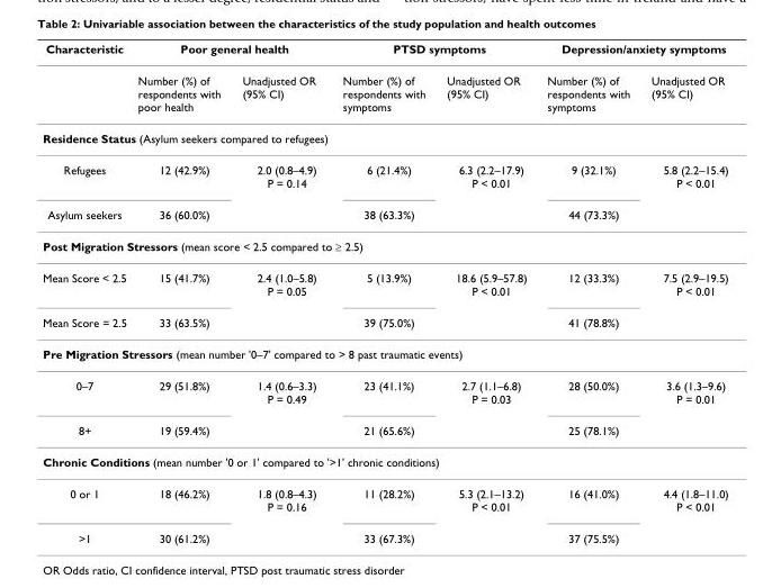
<table><thead><tr><td rowspan="2">Characteristic</td><td colspan="2">Poor general health</td><td colspan="2">PTSD symptoms</td><td colspan="2">Depression/anxiety symptoms</td></tr><tr><td>Number (%) of respondents with poor health</td><td>Unadjusted OR (95% CI)</td><td>Number (%) of respondents with symptoms</td><td>Unadjusted OR (95% CI)</td><td>Number (%) of respondents with symptoms</td><td>Unadjusted OR (95% CI)</td></tr></thead><tbody><tr><td colspan="7">Residence Status (Asylum seekers compared to refugees)</td></tr><tr><td>Refugees</td><td>12 (42.9%)</td><td>2.0 (0.8–4.9) P = 0.14</td><td>6 (21.4%)</td><td>6.3 (2.2–17.9) P &lt; 0.01</td><td>9 (32.1%)</td><td>5.8 (2.2–15.4) P &lt; 0.01</td></tr><tr><td>Asylum seekers</td><td>36 (60.0%)</td><td></td><td>38 (63.3%)</td><td></td><td>44 (73.3%)</td><td></td></tr><tr><td colspan="7">Post Migration Stressors (mean score &lt; 2.5 compared to ≥ 2.5)</td></tr><tr><td>Mean Score &lt; 2.5</td><td>15 (41.7%)</td><td>2.4 (1.0–5.8) P = 0.05</td><td>5 (13.9%)</td><td>18.6 (5.9–57.8) P &lt; 0.01</td><td>12 (33.3%)</td><td>7.5 (2.9–19.5) P &lt; 0.01</td></tr><tr><td>Mean Score = 2.5</td><td>33 (63.5%)</td><td></td><td>39 (75.0%)</td><td></td><td>41 (78.8%)</td><td></td></tr><tr><td colspan="7">Pre Migration Stressors (mean number &#x27;0–7&#x27; compared to &gt; 8 past traumatic events)</td></tr><tr><td>0–7</td><td>29 (51.8%)</td><td>1.4 (0.6–3.3) P = 0.49</td><td>23 (41.1%)</td><td>2.7 (1.1–6.8) P = 0.03</td><td>28 (50.0%)</td><td>3.6 (1.3–9.6) P = 0.01</td></tr><tr><td>8+</td><td>19 (59.4%)</td><td></td><td>21 (65.6%)</td><td></td><td>25 (78.1%)</td><td></td></tr><tr><td colspan="7">Chronic Conditions (mean number &#x27;0 or 1&#x27; compared to &#x27;&gt;1&#x27; chronic conditions)</td></tr><tr><td>0 or 1</td><td>18 (46.2%)</td><td>1.8 (0.8–4.3) P = 0.16</td><td>11 (28.2%)</td><td>5.3 (2.1–13.2) P &lt; 0.01</td><td>16 (41.0%)</td><td>4.4 (1.8–11.0) P &lt; 0.01</td></tr><tr><td>&gt;1</td><td>30 (61.2%)</td><td></td><td>33 (67.3%)</td><td></td><td>37 (75.5%)</td><td></td></tr></tbody></table>